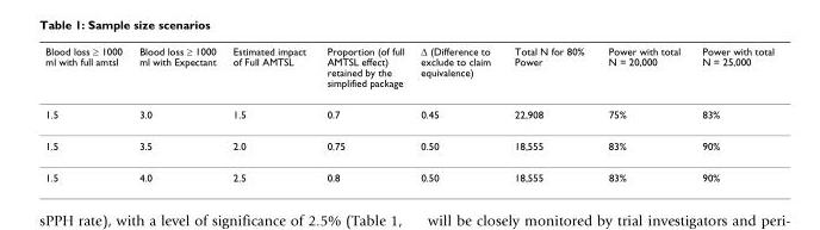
<table><thead><tr><td>Blood loss ≥ 1000 ml with full amtsl</td><td>Blood loss ≥ 1000 ml with Expectant</td><td>Estimated impact of Full AMTSL</td><td>Proportion (of full AMTSL effect) retained by the simplified package</td><td>Δ (Difference to exclude to claim equivalence)</td><td>Total N for 80% Power</td><td>Power with total N = 20,000</td><td>Power with total N = 25,000</td></tr></thead><tbody><tr><td>1.5</td><td>3.0</td><td>1.5</td><td>0.7</td><td>0.45</td><td>22,908</td><td>75%</td><td>83%</td></tr><tr><td>1.5</td><td>3.5</td><td>2.0</td><td>0.75</td><td>0.50</td><td>18,555</td><td>83%</td><td>90%</td></tr><tr><td>1.5</td><td>4.0</td><td>2.5</td><td>0.8</td><td>0.50</td><td>18,555</td><td>83%</td><td>90%</td></tr></tbody></table>